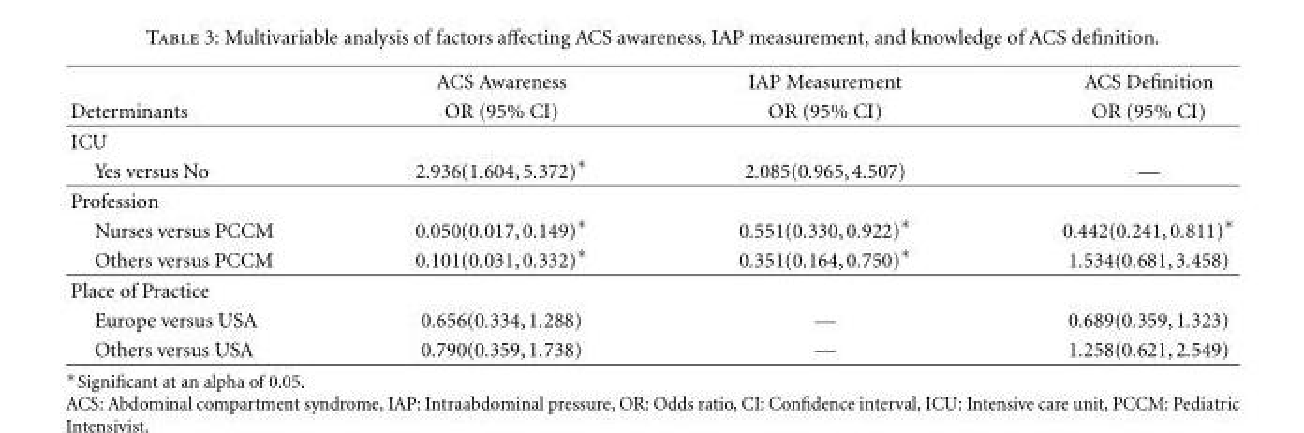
<table><thead><tr><td rowspan="2">Determinants</td><td rowspan="2">ACS Awareness OR (95% CI)</td><td rowspan="2">IAP Measurement OR (95% CI)</td><td rowspan="2">ACS Definition OR (95% CI)</td></tr><tr></tr></thead><tbody><tr><td colspan="4">ICU</td></tr><tr><td>Yes versus No</td><td>2.936(1.604,5.372)∗</td><td>2.085(0.965,4.507)</td><td>—</td></tr><tr><td colspan="4">Profession</td></tr><tr><td>Nurses versus PCCM</td><td>0.050(0.017,0.149)∗</td><td>0.551(0.330,0.922)∗</td><td>0.442(0.241,0.811)∗</td></tr><tr><td>Others versus PCCM</td><td>0.101(0.031,0.332)∗</td><td>0.351(0.164,0.750)∗</td><td>1.534(0.681,3.458)</td></tr><tr><td colspan="4">Place of Practice</td></tr><tr><td>Europe versus USA</td><td>0.656(0.334,1.288)</td><td>—</td><td>0.689(0.359,1.323)</td></tr><tr><td>Others versus USA</td><td>0.790(0.359,1.738)</td><td>—</td><td>1.258(0.621,2.549)</td></tr></tbody></table>